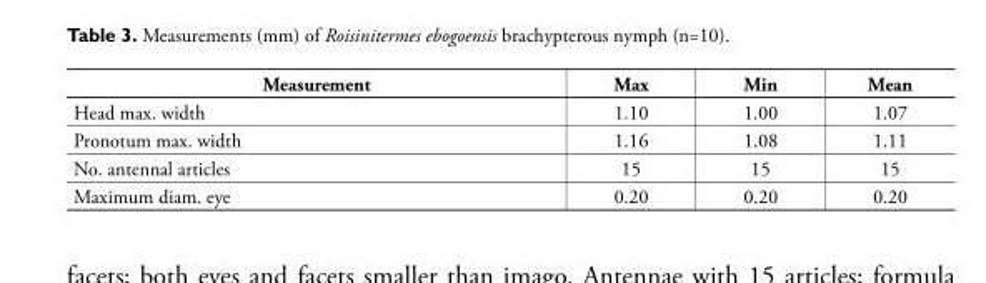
<table><thead><tr><td>Measurement</td><td>Max</td><td>Min</td><td>Mean</td></tr></thead><tbody><tr><td>Head max. width</td><td>1.10</td><td>1.00</td><td>1.07</td></tr><tr><td>Pronotum max. width</td><td>1.16</td><td>1.08</td><td>1.11</td></tr><tr><td>No. antennal articles</td><td>15</td><td>15</td><td>15</td></tr><tr><td>Maximum diam. eye</td><td>0.20</td><td>0.20</td><td>0.20</td></tr></tbody></table>